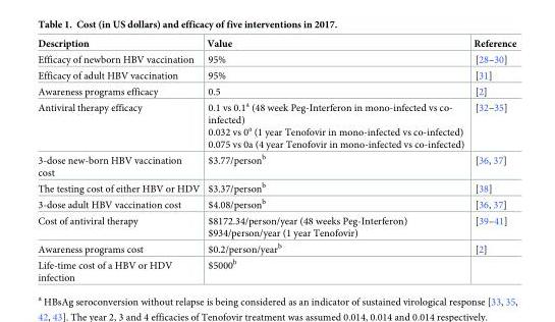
<table><thead><tr><td>Description</td><td>Value</td><td>Reference</td></tr></thead><tbody><tr><td>Efficacy of newborn HBV vaccination</td><td>95%</td><td>[28–30]</td></tr><tr><td>Efficacy of adult HBV vaccination</td><td>95%</td><td>[31]</td></tr><tr><td>Awareness programs efficacy</td><td>0.5</td><td>[2]</td></tr><tr><td>Antiviral therapy efficacy</td><td>0.1 vs 0.1<sup>a</sup> (48 week Peg-Interferon in mono-infected vs co- infected) 0.032 vs 0<sup>a</sup> (1 year Tenofovir in mono-infected vs co-infected) 0.075 vs 0a (4 year Tenofovir in mono-infected vs co-infected)</td><td>[32–35]</td></tr><tr><td>3-dose new-born HBV vaccination cost</td><td>$3.77/person<sup>b</sup></td><td>[36, 37]</td></tr><tr><td>The testing cost of either HBV or HDV</td><td>$3.37/person<sup>b</sup></td><td>[38]</td></tr><tr><td>3-dose adult HBV vaccination cost</td><td>$4.08/person<sup>b</sup></td><td>[36, 37]</td></tr><tr><td>Cost of antiviral therapy</td><td>$8172.34/person/year (48 weeks Peg-Interferon) $934/person/year (1 year Tenofovir)</td><td>[39–41]</td></tr><tr><td>Awareness programs cost</td><td>$0.2/person/year<sup>b</sup></td><td>[2]</td></tr><tr><td>Life-time cost of a HBV or HDV infection</td><td>$5000<sup>b</sup></td><td></td></tr></tbody></table>